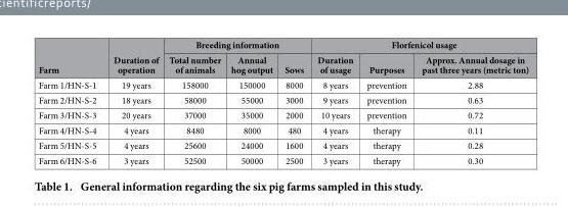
<table><thead><tr><td rowspan="2">Farm</td><td rowspan="2">Duration of operation</td><td colspan="3">Breeding information</td><td colspan="3">Florfenicol usage</td></tr><tr><td>Total number of animals</td><td>Annual hog output</td><td>Sows</td><td>Duration of usage</td><td>Purposes</td><td>Approx. Annual dosage in past three years (metric ton)</td></tr></thead><tbody><tr><td>Farm 1/HN-S-1</td><td>19 years</td><td>158000</td><td>150000</td><td>8000</td><td>8 years</td><td>prevention</td><td>2.88</td></tr><tr><td>Farm 2/HN-S-2</td><td>18 years</td><td>58000</td><td>55000</td><td>3000</td><td>9 years</td><td>prevention</td><td>0.63</td></tr><tr><td>Farm 3/HN-S-3</td><td>20 years</td><td>37000</td><td>35000</td><td>2000</td><td>10 years</td><td>prevention</td><td>0.72</td></tr><tr><td>Farm 4/HN-S-4</td><td>4 years</td><td>8480</td><td>8000</td><td>480</td><td>4 years</td><td>therapy</td><td>0.11</td></tr><tr><td>Farm 5/HN-S-5</td><td>4 years</td><td>25600</td><td>24000</td><td>1600</td><td>4 years</td><td>therapy</td><td>0.28</td></tr><tr><td>Farm 6/HN-S-6</td><td>3 years</td><td>52500</td><td>50000</td><td>2500</td><td>3 years</td><td>therapy</td><td>0.30</td></tr></tbody></table>